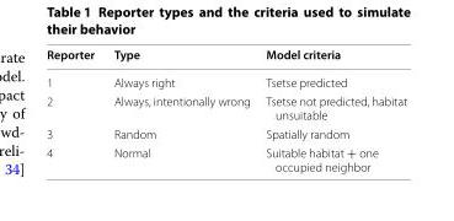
<table><thead><tr><td>Reporter</td><td>Type</td><td>Model criteria</td></tr></thead><tbody><tr><td>1</td><td>Always right</td><td>Tsetse predicted</td></tr><tr><td>2</td><td>Always, intentionally wrong</td><td>Tsetse not predicted, habitat unsuitable</td></tr><tr><td>3</td><td>Random</td><td>Spatially random</td></tr><tr><td>4</td><td>Normal</td><td>Suitable habitat + one occupied neighbor</td></tr></tbody></table>